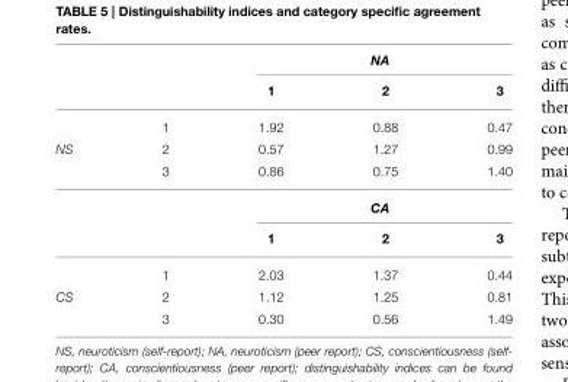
<table><thead><tr><td rowspan="2"></td><td rowspan="2"></td><td colspan="3">NA</td></tr><tr><td>1</td><td>2</td><td>3</td></tr></thead><tbody><tr><td></td><td>1</td><td>1.92</td><td>0.88</td><td>0.47</td></tr><tr><td rowspan="5">NS</td><td>2</td><td>0.57</td><td>1.27</td><td>0.99</td></tr><tr><td>3</td><td>0.86</td><td>0.75</td><td>1.40</td></tr><tr><td></td><td colspan="3">CA</td></tr><tr><td></td><td>1</td><td>2</td><td>3</td></tr><tr><td>1</td><td>2.03</td><td>1.37</td><td>0.44</td></tr><tr><td rowspan="2">CS</td><td>2</td><td>1.12</td><td>1.25</td><td>0.81</td></tr><tr><td>3</td><td>0.30</td><td>0.56</td><td>1.49</td></tr></tbody></table>